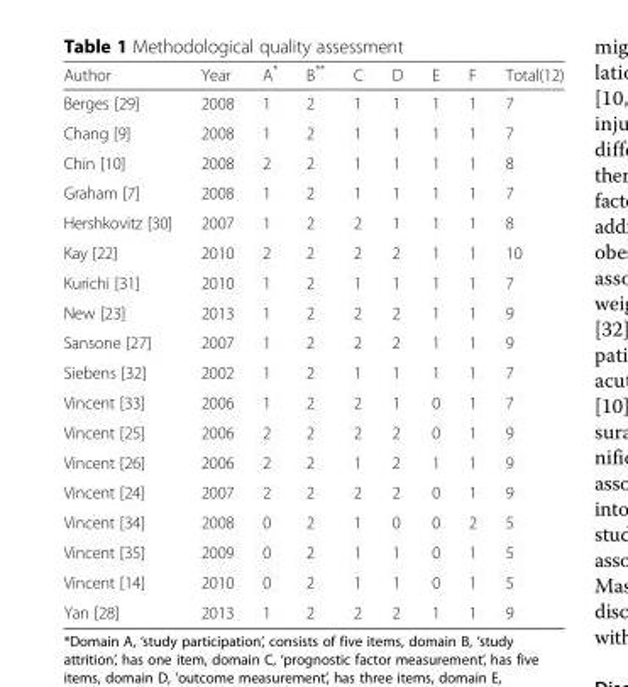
<table><thead><tr><td>Author</td><td>Year</td><td>A*</td><td>B**</td><td>C</td><td>D</td><td>E</td><td>F</td><td>Total(12)</td></tr></thead><tbody><tr><td>Berges [29]</td><td>2008</td><td>1</td><td>2</td><td>1</td><td>1</td><td>1</td><td>1</td><td>7</td></tr><tr><td>Chang [9]</td><td>2008</td><td>1</td><td>2</td><td>1</td><td>1</td><td>1</td><td>1</td><td>7</td></tr><tr><td>Chin [10]</td><td>2008</td><td>2</td><td>2</td><td>1</td><td>1</td><td>1</td><td>1</td><td>8</td></tr><tr><td>Graham [7]</td><td>2008</td><td>1</td><td>2</td><td>1</td><td>1</td><td>1</td><td>1</td><td>7</td></tr><tr><td>Hershkovitz [30]</td><td>2007</td><td>1</td><td>2</td><td>2</td><td>1</td><td>1</td><td>1</td><td>8</td></tr><tr><td>Kay [22]</td><td>2010</td><td>2</td><td>2</td><td>2</td><td>2</td><td>1</td><td>1</td><td>10</td></tr><tr><td>Kurichi [31]</td><td>2010</td><td>1</td><td>2</td><td>1</td><td>1</td><td>1</td><td>1</td><td>7</td></tr><tr><td>New [23]</td><td>2013</td><td>1</td><td>2</td><td>2</td><td>2</td><td>1</td><td>1</td><td>9</td></tr><tr><td>Sansone [27]</td><td>2007</td><td>1</td><td>2</td><td>2</td><td>2</td><td>1</td><td>1</td><td>9</td></tr><tr><td>Siebens [32]</td><td>2002</td><td>1</td><td>2</td><td>1</td><td>1</td><td>1</td><td>1</td><td>7</td></tr><tr><td>Vincent [33]</td><td>2006</td><td>1</td><td>2</td><td>2</td><td>1</td><td>0</td><td>1</td><td>7</td></tr><tr><td>Vincent [25]</td><td>2006</td><td>2</td><td>2</td><td>2</td><td>2</td><td>0</td><td>1</td><td>9</td></tr><tr><td>Vincent [26]</td><td>2006</td><td>2</td><td>2</td><td>1</td><td>2</td><td>1</td><td>1</td><td>9</td></tr><tr><td>Vincent [24]</td><td>2007</td><td>2</td><td>2</td><td>2</td><td>2</td><td>0</td><td>1</td><td>9</td></tr><tr><td>Vincent [34]</td><td>2008</td><td>0</td><td>2</td><td>1</td><td>0</td><td>0</td><td>2</td><td>5</td></tr><tr><td>Vincent [35]</td><td>2009</td><td>0</td><td>2</td><td>1</td><td>1</td><td>0</td><td>1</td><td>5</td></tr><tr><td>Vincent [14]</td><td>2010</td><td>0</td><td>2</td><td>1</td><td>1</td><td>0</td><td>1</td><td>5</td></tr><tr><td>Yan [28]</td><td>2013</td><td>1</td><td>2</td><td>2</td><td>2</td><td>1</td><td>1</td><td>9</td></tr></tbody></table>